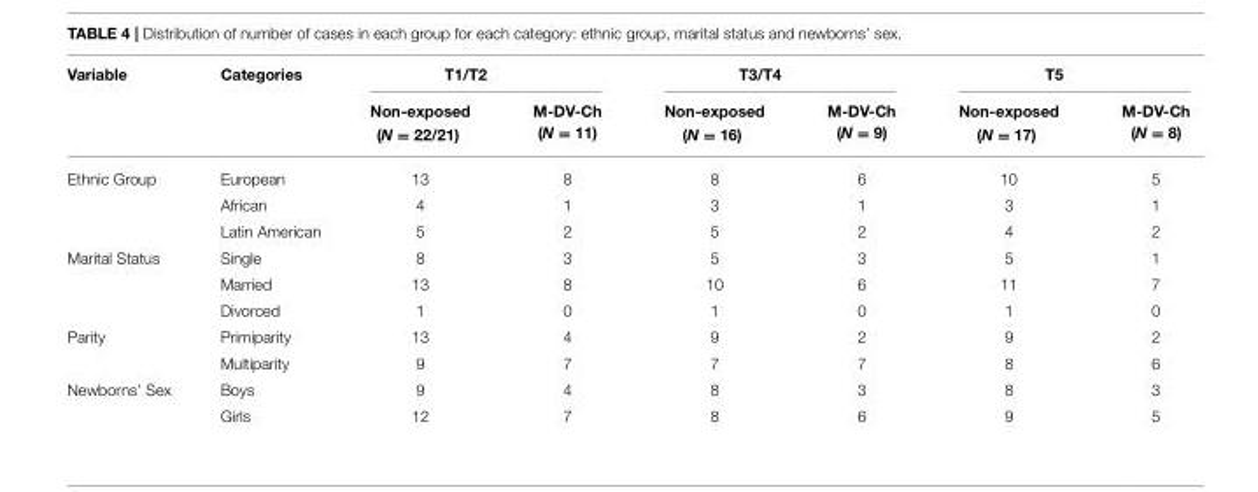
<table><thead><tr><td rowspan="2">Variable</td><td rowspan="2">Categories</td><td colspan="2">T1/T2</td><td colspan="2">T3/T4</td><td colspan="2">T5</td></tr><tr><td>Non-exposed (N = 22/21)</td><td>M-DV-Ch (N = 11)</td><td>Non-exposed (N = 16)</td><td>M-DV-Ch (N = 9)</td><td>Non-exposed (N = 17)</td><td>M-DV-Ch (N = 8)</td></tr></thead><tbody><tr><td rowspan="3">Ethnic Group</td><td>European</td><td>13</td><td>8</td><td>8</td><td>6</td><td>10</td><td>5</td></tr><tr><td>African</td><td>4</td><td>1</td><td>3</td><td>1</td><td>3</td><td>1</td></tr><tr><td>Latin American</td><td>5</td><td>2</td><td>5</td><td>2</td><td>4</td><td>2</td></tr><tr><td rowspan="3">Marital Status</td><td>Single</td><td>8</td><td>3</td><td>5</td><td>3</td><td>5</td><td>1</td></tr><tr><td>Married</td><td>13</td><td>8</td><td>10</td><td>6</td><td>11</td><td>7</td></tr><tr><td>Divorced</td><td>1</td><td>0</td><td>1</td><td>0</td><td>1</td><td>0</td></tr><tr><td rowspan="2">Parity</td><td>Primiparity</td><td>13</td><td>4</td><td>9</td><td>2</td><td>9</td><td>2</td></tr><tr><td>Multiparity</td><td>9</td><td>7</td><td>7</td><td>7</td><td>8</td><td>6</td></tr><tr><td rowspan="2">Newborns’ Sex</td><td>Boys</td><td>9</td><td>4</td><td>8</td><td>3</td><td>8</td><td>3</td></tr><tr><td>Girls</td><td>12</td><td>7</td><td>8</td><td>6</td><td>9</td><td>5</td></tr></tbody></table>